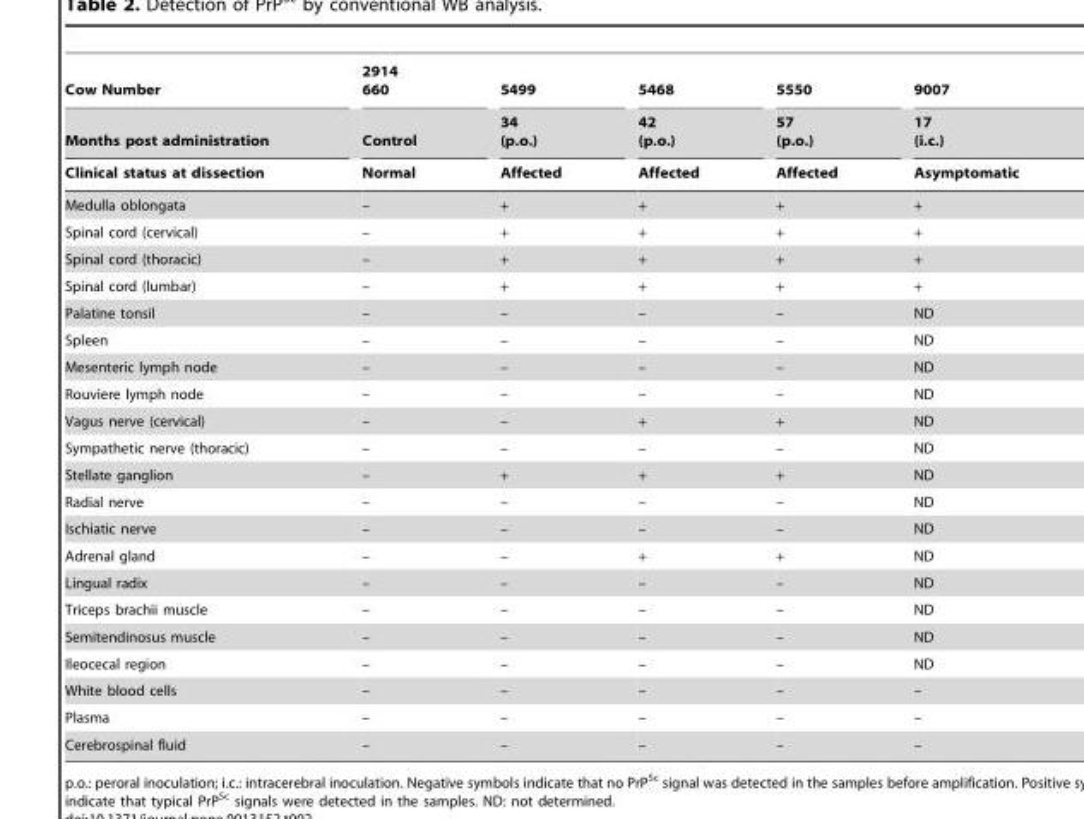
<table><thead><tr><td rowspan="3">Cow Number Months post administration Clinical status at dissection</td><td rowspan="3">2914 660 Control Normal</td><td rowspan="3">5499 34 (p.o.) Affected</td><td rowspan="3">5468 42 (p.o.) Affected</td><td rowspan="3">5550 57 (p.o.) Affected</td><td rowspan="3">9007 17 (i.c.) Asymptomatic</td></tr><tr></tr><tr></tr></thead><tbody><tr><td>Medulla oblongata</td><td>–</td><td>+</td><td>+</td><td>+</td><td>+</td></tr><tr><td>Spinal cord (cervical)</td><td>–</td><td>+</td><td>+</td><td>+</td><td>+</td></tr><tr><td>Spinal cord (thoracic)</td><td>–</td><td>+</td><td>+</td><td>+</td><td>+</td></tr><tr><td>Spinal cord (lumbar)</td><td>–</td><td>+</td><td>+</td><td>+</td><td>+</td></tr><tr><td>Palatine tonsil</td><td>–</td><td>–</td><td>–</td><td>–</td><td>ND</td></tr><tr><td>Spleen</td><td>–</td><td>–</td><td>–</td><td>–</td><td>ND</td></tr><tr><td>Mesenteric lymph node</td><td>–</td><td>–</td><td>–</td><td>–</td><td>ND</td></tr><tr><td>Rouviere lymph node</td><td>–</td><td>–</td><td>–</td><td>–</td><td>ND</td></tr><tr><td>Vagus nerve (cervical)</td><td>–</td><td>–</td><td>+</td><td>+</td><td>ND</td></tr><tr><td>Sympathetic nerve (thoracic)</td><td>–</td><td>–</td><td>–</td><td>–</td><td>ND</td></tr><tr><td>Stellate ganglion</td><td>–</td><td>+</td><td>+</td><td>+</td><td>ND</td></tr><tr><td>Radial nerve</td><td>–</td><td>–</td><td>–</td><td>–</td><td>ND</td></tr><tr><td>Ischiatic nerve</td><td>–</td><td>–</td><td>–</td><td>–</td><td>ND</td></tr><tr><td>Adrenal gland</td><td>–</td><td>–</td><td>+</td><td>+</td><td>ND</td></tr><tr><td>Lingual radix</td><td>–</td><td>–</td><td>–</td><td>–</td><td>ND</td></tr><tr><td>Triceps brachii muscle</td><td>–</td><td>–</td><td>–</td><td>–</td><td>ND</td></tr><tr><td>Semitendinosus muscle</td><td>–</td><td>–</td><td>–</td><td>–</td><td>ND</td></tr><tr><td>Ileocecal region</td><td>–</td><td>–</td><td>–</td><td>–</td><td>ND</td></tr><tr><td>White blood cells</td><td>–</td><td>–</td><td>–</td><td>–</td><td>–</td></tr><tr><td>Plasma</td><td>–</td><td>–</td><td>–</td><td>–</td><td>–</td></tr><tr><td>Cerebrospinal fluid</td><td>–</td><td>–</td><td>–</td><td>–</td><td>–</td></tr></tbody></table>